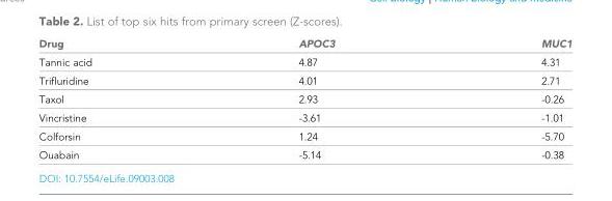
<table><thead><tr><td>Drug</td><td>APOC3</td><td>MUC1</td></tr></thead><tbody><tr><td>Tannic acid</td><td>4.87</td><td>4.31</td></tr><tr><td>Trifluridine</td><td>4.01</td><td>2.71</td></tr><tr><td>Taxol</td><td>2.93</td><td>-0.26</td></tr><tr><td>Vincristine</td><td>-3.61</td><td>-1.01</td></tr><tr><td>Colforsin</td><td>1.24</td><td>-5.70</td></tr><tr><td>Ouabain</td><td>-5.14</td><td>-0.38</td></tr></tbody></table>